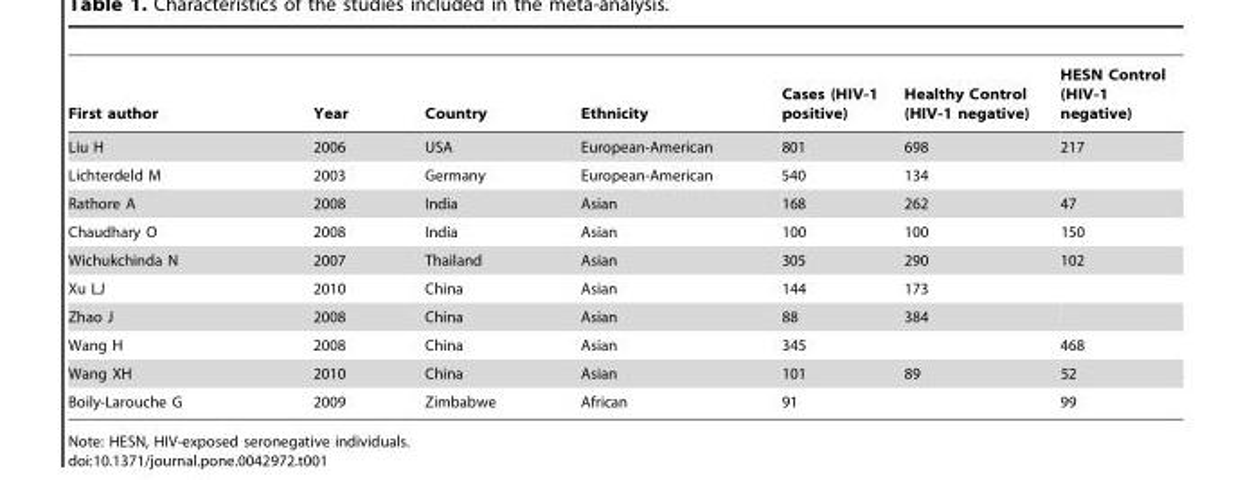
<table><thead><tr><td>First author</td><td>Year</td><td>Country</td><td>Ethnicity</td><td>Cases (HIV-1 positive)</td><td>Healthy Control (HIV-1 negative)</td><td>HESN Control (HIV-1 negative)</td></tr></thead><tbody><tr><td>Liu H</td><td>2006</td><td>USA</td><td>European-American</td><td>801</td><td>698</td><td>217</td></tr><tr><td>Lichterdeld M</td><td>2003</td><td>Germany</td><td>European-American</td><td>540</td><td>134</td><td></td></tr><tr><td>Rathore A</td><td>2008</td><td>India</td><td>Asian</td><td>168</td><td>262</td><td>47</td></tr><tr><td>Chaudhary O</td><td>2008</td><td>India</td><td>Asian</td><td>100</td><td>100</td><td>150</td></tr><tr><td>Wichukchinda N</td><td>2007</td><td>Thailand</td><td>Asian</td><td>305</td><td>290</td><td>102</td></tr><tr><td>Xu LJ</td><td>2010</td><td>China</td><td>Asian</td><td>144</td><td>173</td><td></td></tr><tr><td>Zhao J</td><td>2008</td><td>China</td><td>Asian</td><td>88</td><td>384</td><td></td></tr><tr><td>Wang H</td><td>2008</td><td>China</td><td>Asian</td><td>345</td><td></td><td>468</td></tr><tr><td>Wang XH</td><td>2010</td><td>China</td><td>Asian</td><td>101</td><td>89</td><td>52</td></tr><tr><td>Boily-Larouche G</td><td>2009</td><td>Zimbabwe</td><td>African</td><td>91</td><td></td><td>99</td></tr></tbody></table>